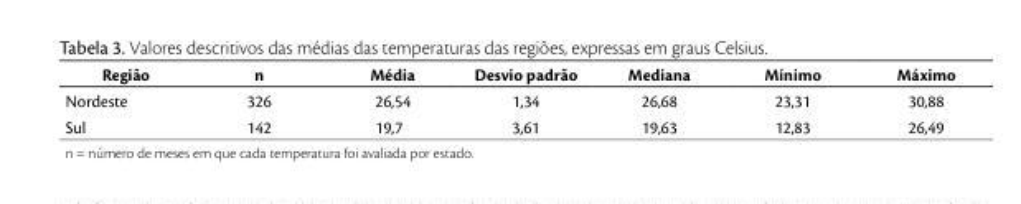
<table><thead><tr><td>Região</td><td>n</td><td>Média</td><td>Desvio padrão</td><td>Mediana</td><td>Mínimo</td><td>Máximo</td></tr></thead><tbody><tr><td>Nordeste</td><td>326</td><td>26,54</td><td>1,34</td><td>26,68</td><td>23,31</td><td>30,88</td></tr><tr><td>Sul</td><td>142</td><td>19,7</td><td>3,61</td><td>19,63</td><td>12,83</td><td>26,49</td></tr></tbody></table>